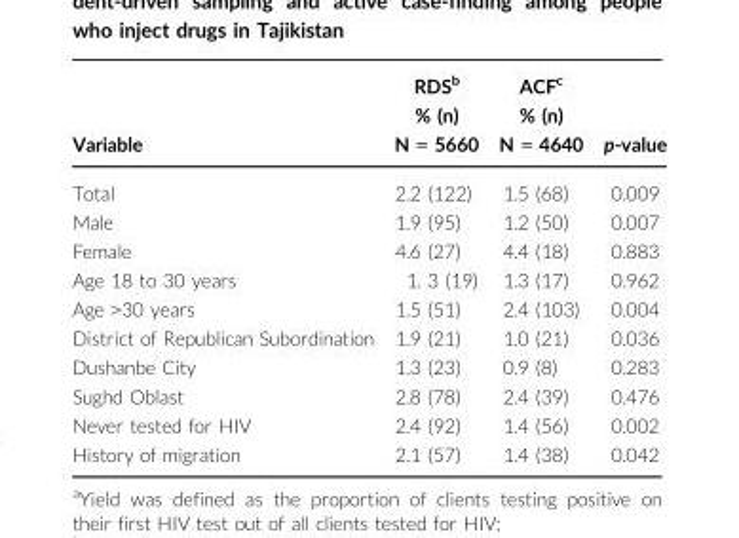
<table><thead><tr><td>Variable</td><td>RDS<sup>b</sup> % (n) N = 5660</td><td>ACF<sup>c</sup> % (n) N = 4640</td><td>p-value</td></tr></thead><tbody><tr><td>Total</td><td>2.2 (122)</td><td>1.5 (68)</td><td>0.009</td></tr><tr><td>Male</td><td>1.9 (95)</td><td>1.2 (50)</td><td>0.007</td></tr><tr><td>Female</td><td>4.6 (27)</td><td>4.4 (18)</td><td>0.883</td></tr><tr><td>Age 18 to 30 years</td><td>1. 3 (19)</td><td>1.3 (17)</td><td>0.962</td></tr><tr><td>Age &gt;30 years</td><td>1.5 (51)</td><td>2.4 (103)</td><td>0.004</td></tr><tr><td>District of Republican Subordination</td><td>1.9 (21)</td><td>1.0 (21)</td><td>0.036</td></tr><tr><td>Dushanbe City</td><td>1.3 (23)</td><td>0.9 (8)</td><td>0.283</td></tr><tr><td>Sughd Oblast</td><td>2.8 (78)</td><td>2.4 (39)</td><td>0.476</td></tr><tr><td>Never tested for HIV</td><td>2.4 (92)</td><td>1.4 (56)</td><td>0.002</td></tr><tr><td>History of migration</td><td>2.1 (57)</td><td>1.4 (38)</td><td>0.042</td></tr></tbody></table>